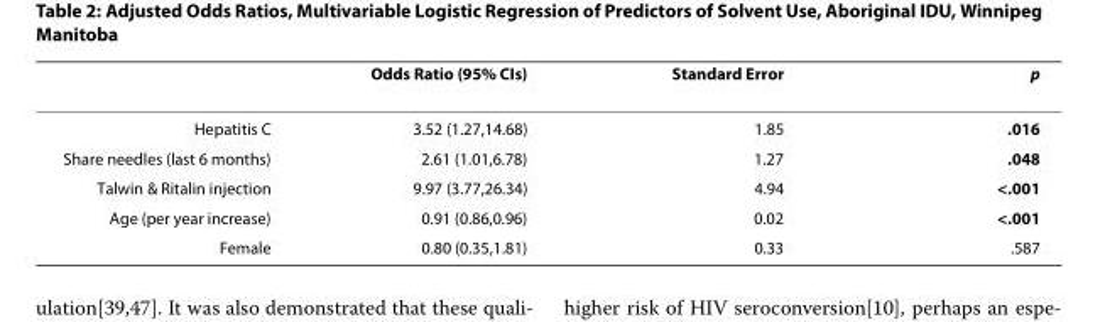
<table><thead><tr><td></td><td>Odds Ratio (95% CIs)</td><td>Standard Error</td><td>p</td></tr></thead><tbody><tr><td>Hepatitis C</td><td>3.52 (1.27,14.68)</td><td>1.85</td><td>.016</td></tr><tr><td>Share needles (last 6 months)</td><td>2.61 (1.01,6.78)</td><td>1.27</td><td>.048</td></tr><tr><td>Talwin &amp; Ritalin injection</td><td>9.97 (3.77,26.34)</td><td>4.94</td><td>&lt;.001</td></tr><tr><td>Age (per year increase)</td><td>0.91 (0.86,0.96)</td><td>0.02</td><td>&lt;.001</td></tr><tr><td>Female</td><td>0.80 (0.35,1.81)</td><td>0.33</td><td>.587</td></tr></tbody></table>